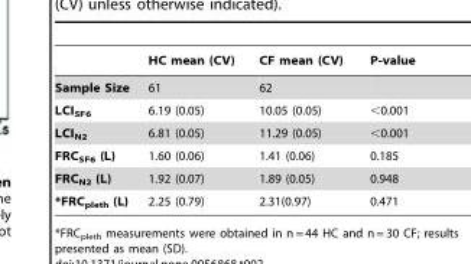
<table><thead><tr><td></td><td>HC mean (CV)</td><td>CF mean (CV)</td><td>P-value</td></tr></thead><tbody><tr><td>Sample Size</td><td>61</td><td>62</td><td></td></tr><tr><td>LCI<sub>SF6</sub></td><td>6.19 (0.05)</td><td>10.05 (0.05)</td><td>&lt;0.001</td></tr><tr><td>LCI<sub>N2</sub></td><td>6.81 (0.05)</td><td>11.29 (0.05)</td><td>&lt;0.001</td></tr><tr><td>FRC<sub>SF6</sub> (L)</td><td>1.60 (0.06)</td><td>1.41 (0.06)</td><td>0.185</td></tr><tr><td>FRC<sub>N2</sub> (L)</td><td>1.92 (0.07)</td><td>1.89 (0.05)</td><td>0.948</td></tr><tr><td>*FRC<sub>pleth</sub> (L)</td><td>2.25 (0.79)</td><td>2.31(0.97)</td><td>0.471</td></tr></tbody></table>